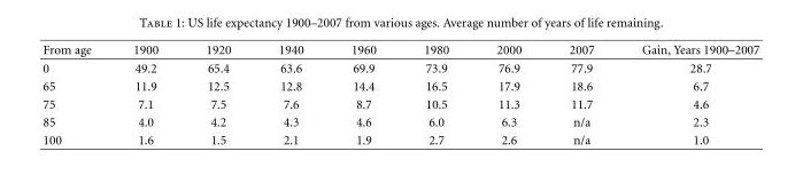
<table><thead><tr><td>From age</td><td>1900</td><td>1920</td><td>1940</td><td>1960</td><td>1980</td><td>2000</td><td>2007</td><td>Gain, Years 1900–2007</td></tr></thead><tbody><tr><td>0</td><td>49.2</td><td>65.4</td><td>63.6</td><td>69.9</td><td>73.9</td><td>76.9</td><td>77.9</td><td>28.7</td></tr><tr><td>65</td><td>11.9</td><td>12.5</td><td>12.8</td><td>14.4</td><td>16.5</td><td>17.9</td><td>18.6</td><td>6.7</td></tr><tr><td>75</td><td>7.1</td><td>7.5</td><td>7.6</td><td>8.7</td><td>10.5</td><td>11.3</td><td>11.7</td><td>4.6</td></tr><tr><td>85</td><td>4.0</td><td>4.2</td><td>4.3</td><td>4.6</td><td>6.0</td><td>6.3</td><td>n/a</td><td>2.3</td></tr><tr><td>100</td><td>1.6</td><td>1.5</td><td>2.1</td><td>1.9</td><td>2.7</td><td>2.6</td><td>n/a</td><td>1.0</td></tr></tbody></table>